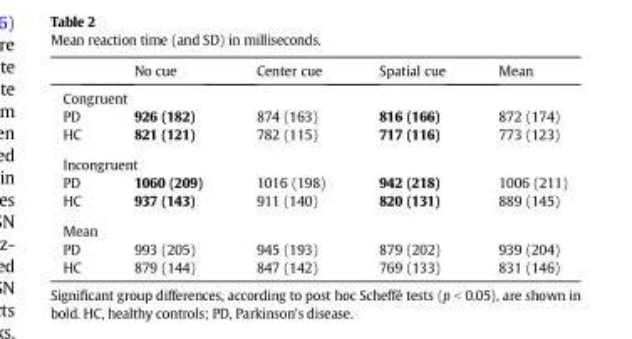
<table><thead><tr><td></td><td>No cue</td><td>Center cue</td><td>Spatial cue</td><td>Mean</td></tr></thead><tbody><tr><td colspan="5">Congruent</td></tr><tr><td>PD</td><td>926 (182)</td><td>874 (163)</td><td>816 (166)</td><td>872 (174)</td></tr><tr><td>HC</td><td>821 (121)</td><td>782 (115)</td><td>717 (116)</td><td>773 (123)</td></tr><tr><td colspan="5">Incongruent</td></tr><tr><td>PD</td><td>1060 (209)</td><td>1016 (198)</td><td>942 (218)</td><td>1006 (211)</td></tr><tr><td>HC</td><td>937 (143)</td><td>911 (140)</td><td>820 (131)</td><td>889 (145)</td></tr><tr><td colspan="5">Mean</td></tr><tr><td>PD</td><td>993 (205)</td><td>945 (193)</td><td>879 (202)</td><td>939 (204)</td></tr><tr><td>HC</td><td>879 (144)</td><td>847 (142)</td><td>769 (133)</td><td>831 (146)</td></tr></tbody></table>